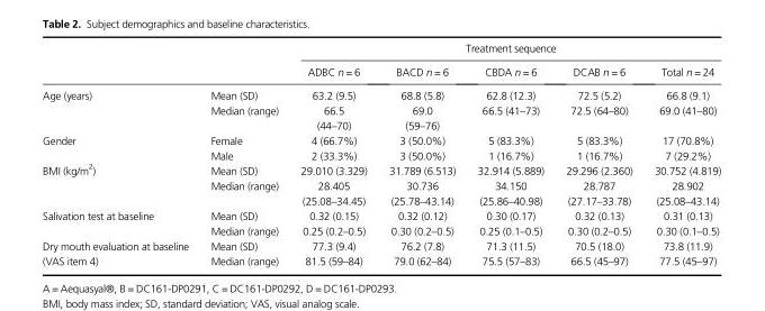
<table><thead><tr><td rowspan="2"></td><td rowspan="2"></td><td colspan="5">Treatment sequence</td></tr><tr><td>ADBC n = 6</td><td>BACD n = 6</td><td>CBDA n = 6</td><td>DCAB n = 6</td><td>Total n = 24</td></tr></thead><tbody><tr><td rowspan="2">Age (years)</td><td>Mean (SD)</td><td>63.2 (9.5)</td><td>68.8 (5.8)</td><td>62.8 (12.3)</td><td>72.5 (5.2)</td><td>66.8 (9.1)</td></tr><tr><td>Median (range)</td><td>66.5 (44–70)</td><td>69.0 (59–76)</td><td>66.5 (41–73)</td><td>72.5 (64–80)</td><td>69.0 (41–80)</td></tr><tr><td rowspan="2">Gender</td><td>Female</td><td>4 (66.7%)</td><td>3 (50.0%)</td><td>5 (83.3%)</td><td>5 (83.3%)</td><td>17 (70.8%)</td></tr><tr><td>Male</td><td>2 (33.3%)</td><td>3 (50.0%)</td><td>1 (16.7%)</td><td>1 (16.7%)</td><td>7 (29.2%)</td></tr><tr><td rowspan="2">BMI (kg/m<sup>2</sup>)</td><td>Mean (SD)</td><td>29.010 (3.329)</td><td>31.789 (6.513)</td><td>32.914 (5.889)</td><td>29.296 (2.360)</td><td>30.752 (4.819)</td></tr><tr><td>Median (range)</td><td>28.405 (25.08–34.45)</td><td>30.736 (25.78–43.14)</td><td>34.150 (25.86–40.98)</td><td>28.787 (27.17–33.78)</td><td>28.902 (25.08–43.14)</td></tr><tr><td rowspan="2">Salivation test at baseline</td><td>Mean (SD)</td><td>0.32 (0.15)</td><td>0.32 (0.12)</td><td>0.30 (0.17)</td><td>0.32 (0.13)</td><td>0.31 (0.13)</td></tr><tr><td>Median (range)</td><td>0.25 (0.2–0.5)</td><td>0.30 (0.2–0.5)</td><td>0.25 (0.1–0.5)</td><td>0.30 (0.2–0.5)</td><td>0.30 (0.1–0.5)</td></tr><tr><td rowspan="2">Dry mouth evaluation at baseline (VAS item 4)</td><td>Mean (SD)</td><td>77.3 (9.4)</td><td>76.2 (7.8)</td><td>71.3 (11.5)</td><td>70.5 (18.0)</td><td>73.8 (11.9)</td></tr><tr><td>Median (range)</td><td>81.5 (59–84)</td><td>79.0 (62–84)</td><td>75.5 (57–83)</td><td>66.5 (45–97)</td><td>77.5 (45–97)</td></tr></tbody></table>